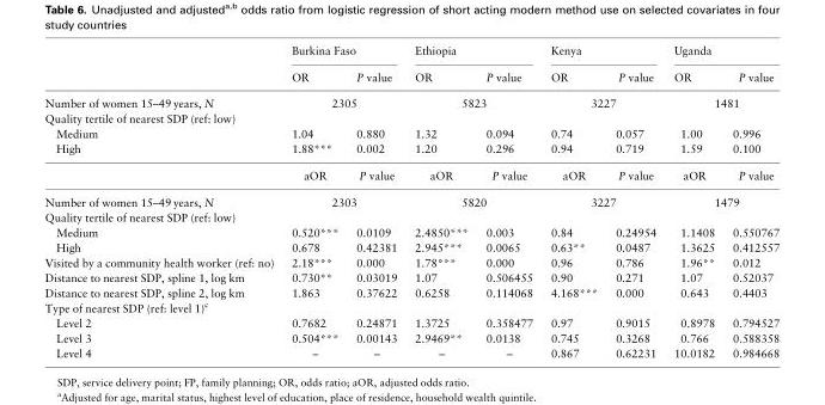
<table><thead><tr><td rowspan="2"></td><td colspan="2">Burkina Faso</td><td colspan="2">Ethiopia</td><td colspan="2">Kenya</td><td colspan="2">Uganda</td></tr><tr><td>OR</td><td>P value</td><td>OR</td><td>P value</td><td>OR</td><td>P value</td><td>OR</td><td>P value</td></tr></thead><tbody><tr><td>Number of women 15–49 years, N</td><td colspan="2">2305</td><td colspan="2">5823</td><td colspan="2">3227</td><td colspan="2">1481</td></tr><tr><td colspan="9">Quality tertile of nearest SDP (ref: low)</td></tr><tr><td>Medium</td><td>1.04</td><td>0.880</td><td>1.32</td><td>0.094</td><td>0.74</td><td>0.057</td><td>1.00</td><td>0.996</td></tr><tr><td rowspan="2">High</td><td>1.88***</td><td>0.002</td><td>1.20</td><td>0.296</td><td>0.94</td><td>0.719</td><td>1.59</td><td>0.100</td></tr><tr><td>aOR</td><td>P value</td><td>aOR</td><td>P value</td><td>aOR</td><td>P value</td><td>aOR</td><td>P value</td></tr><tr><td>Number of women 15–49 years, N</td><td colspan="2">2303</td><td colspan="2">5820</td><td colspan="2">3227</td><td colspan="2">1479</td></tr><tr><td colspan="9">Quality tertile of nearest SDP (ref: low)</td></tr><tr><td>Medium</td><td>0.520***</td><td>0.0109</td><td>2.4850***</td><td>0.003</td><td>0.84</td><td>0.24954</td><td>1.1408</td><td>0.550767</td></tr><tr><td>High</td><td>0.678</td><td>0.42381</td><td>2.945***</td><td>0.0065</td><td>0.63**</td><td>0.0487</td><td>1.3625</td><td>0.412557</td></tr><tr><td>Visited by a community health worker (ref: no)</td><td>2.18***</td><td>0.000</td><td>1.78***</td><td>0.000</td><td>0.96</td><td>0.786</td><td>1.96**</td><td>0.012</td></tr><tr><td>Distance to nearest SDP, spline 1, log km</td><td>0.730**</td><td>0.03019</td><td>1.07</td><td>0.506455</td><td>0.90</td><td>0.271</td><td>1.07</td><td>0.52037</td></tr><tr><td>Distance to nearest SDP, spline 2, log km</td><td>1.863</td><td>0.37622</td><td>0.6258</td><td>0.114068</td><td>4.168***</td><td>0.000</td><td>0.643</td><td>0.4403</td></tr><tr><td colspan="9">Type of nearest SDP (ref: level 1)<sup>c</sup></td></tr><tr><td>Level 2</td><td>0.7682</td><td>0.24871</td><td>1.3725</td><td>0.358477</td><td>0.97</td><td>0.9015</td><td>0.8978</td><td>0.794527</td></tr><tr><td>Level 3</td><td>0.504***</td><td>0.00143</td><td>2.9469**</td><td>0.0138</td><td>0.745</td><td>0.3268</td><td>0.766</td><td>0.588358</td></tr><tr><td>Level 4</td><td>–</td><td>–</td><td>–</td><td>–</td><td>0.867</td><td>0.62231</td><td>10.0182</td><td>0.984668</td></tr></tbody></table>